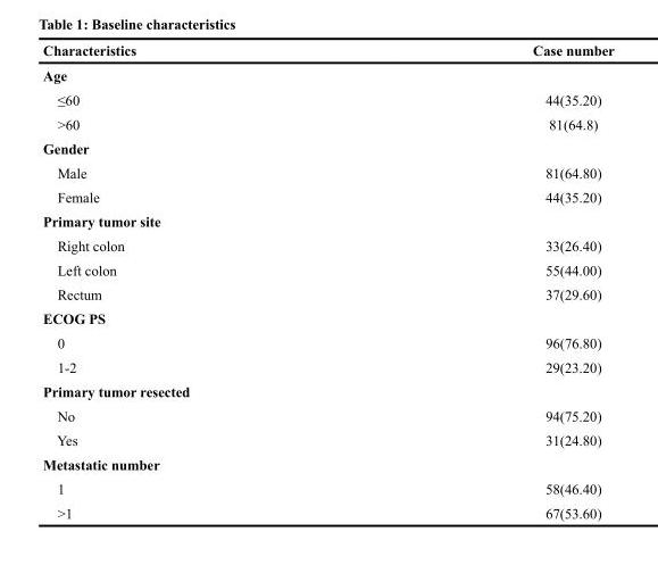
<table><thead><tr><td>Characteristics</td><td>Case number</td></tr></thead><tbody><tr><td colspan="2">Age</td></tr><tr><td>≤60</td><td>44(35.20)</td></tr><tr><td>&gt;60</td><td>81(64.8)</td></tr><tr><td colspan="2">Gender</td></tr><tr><td>Male</td><td>81(64.80)</td></tr><tr><td>Female</td><td>44(35.20)</td></tr><tr><td colspan="2">Primary tumor site</td></tr><tr><td>Right colon</td><td>33(26.40)</td></tr><tr><td>Left colon</td><td>55(44.00)</td></tr><tr><td>Rectum</td><td>37(29.60)</td></tr><tr><td colspan="2">ECOG PS</td></tr><tr><td>0</td><td>96(76.80)</td></tr><tr><td>1-2</td><td>29(23.20)</td></tr><tr><td colspan="2">Primary tumor resected</td></tr><tr><td>No</td><td>94(75.20)</td></tr><tr><td>Yes</td><td>31(24.80)</td></tr><tr><td colspan="2">Metastatic number</td></tr><tr><td>1</td><td>58(46.40)</td></tr><tr><td>&gt;1</td><td>67(53.60)</td></tr></tbody></table>